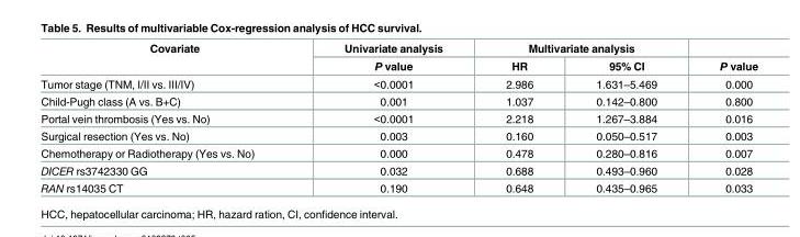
<table><thead><tr><td rowspan="2">Covariate</td><td rowspan="2">Univariate analysis P value</td><td colspan="2">Multivariate analysis</td><td rowspan="2">P value</td></tr><tr><td>HR</td><td>95% CI</td></tr></thead><tbody><tr><td>Tumor stage (TNM, I/II vs. III/IV)</td><td>&lt;0.0001</td><td>2.986</td><td>1.631–5.469</td><td>0.000</td></tr><tr><td>Child-Pugh class (A vs. B+C)</td><td>0.001</td><td>1.037</td><td>0.142–0.800</td><td>0.800</td></tr><tr><td>Portal vein thrombosis (Yes vs. No)</td><td>&lt;0.0001</td><td>2.218</td><td>1.267–3.884</td><td>0.016</td></tr><tr><td>Surgical resection (Yes vs. No)</td><td>0.003</td><td>0.160</td><td>0.050–0.517</td><td>0.003</td></tr><tr><td>Chemotherapy or Radiotherapy (Yes vs. No)</td><td>0.000</td><td>0.478</td><td>0.280–0.816</td><td>0.007</td></tr><tr><td>DICER rs3742330 GG</td><td>0.032</td><td>0.688</td><td>0.493–0.960</td><td>0.028</td></tr><tr><td>RAN rs14035 CT</td><td>0.190</td><td>0.648</td><td>0.435–0.965</td><td>0.033</td></tr></tbody></table>